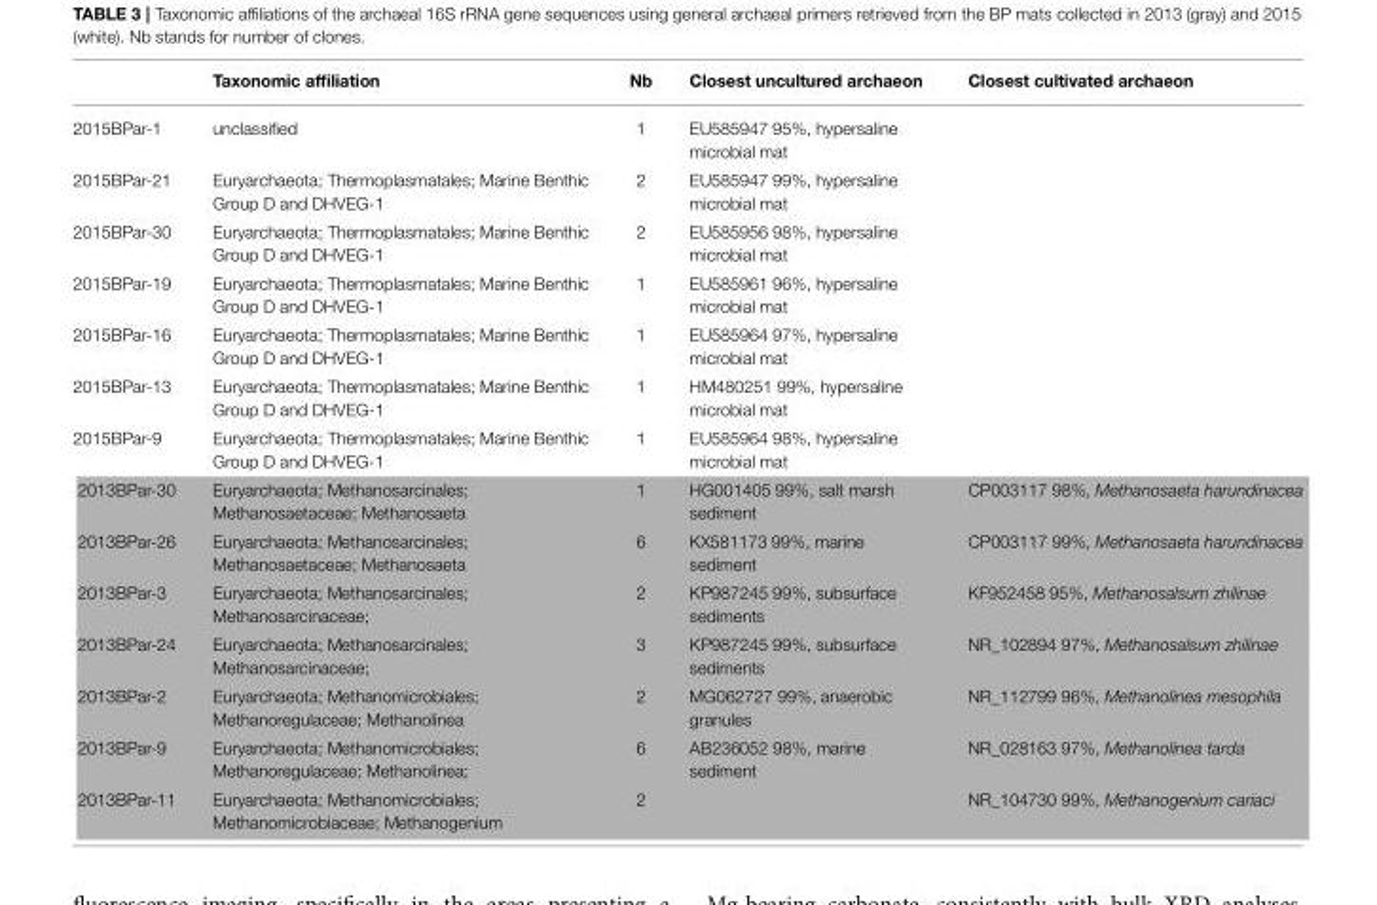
<table><thead><tr><td></td><td>Taxonomic affiliation</td><td>Nb</td><td>Closest uncultured archaeon</td><td>Closest cultivated archaeon</td></tr></thead><tbody><tr><td>2015BPar-1</td><td>unclassified</td><td>1</td><td>EU585947 95%, hypersaline microbial mat</td><td></td></tr><tr><td>2015BPar-21</td><td>Euryarchaeota; Thermoplasmatales; Marine Benthic Group D and DHVEG-1</td><td>2</td><td>EU585947 99%, hypersaline microbial mat</td><td></td></tr><tr><td>2015BPar-30</td><td>Euryarchaeota; Thermoplasmatales; Marine Benthic Group D and DHVEG-1</td><td>2</td><td>EU585956 98%, hypersaline microbial mat</td><td></td></tr><tr><td>2015BPar-19</td><td>Euryarchaeota; Thermoplasmatales; Marine Benthic Group D and DHVEG-1</td><td>1</td><td>EU585961 96%, hypersaline microbial mat</td><td></td></tr><tr><td>2015BPar-16</td><td>Euryarchaeota; Thermoplasmatales; Marine Benthic Group D and DHVEG-1</td><td>1</td><td>EU585964 97%, hypersaline microbial mat</td><td></td></tr><tr><td>2015BPar-13</td><td>Euryarchaeota; Thermoplasmatales; Marine Benthic Group D and DHVEG-1</td><td>1</td><td>HM480251 99%, hypersaline microbial mat</td><td></td></tr><tr><td>2015BPar-9</td><td>Euryarchaeota; Thermoplasmatales; Marine Benthic Group D and DHVEG-1</td><td>1</td><td>EU585964 98%, hypersaline microbial mat</td><td></td></tr><tr><td>2013BPar-30</td><td>Euryarchaeota; Methanosarcinales; Methanosaetaceae; Methanosaeta</td><td>1</td><td>HG001405 99%, salt marsh sediment</td><td>CP003117 98%, Methanosaeta harundinacea</td></tr><tr><td>2013BPar-26</td><td>Euryarchaeota; Methanosarcinales; Methanosaetaceae; Methanosaeta</td><td>6</td><td>KX581173 99%, marine sediment</td><td>CP003117 99%, Methanosaeta harundinacea</td></tr><tr><td>2013BPar-3</td><td>Euryarchaeota; Methanosarcinales; Methanosarcinaceae;</td><td>2</td><td>KP987245 99%, subsurface sediments</td><td>KF952458 95%, Methanosalsum zhilinae</td></tr><tr><td>2013BPar-24</td><td>Euryarchaeota; Methanosarcinales; Methanosarcinaceae;</td><td>3</td><td>KP987245 99%, subsurface sediments</td><td>NR_102894 97%, Methanosalsum zhilinae</td></tr><tr><td>2013BPar-2</td><td>Euryarchaeota; Methanomicrobiales; Methanoregulaceae; Methanolinea</td><td>2</td><td>MG062727 99%, anaerobic granules</td><td>NR_112799 96%, Methanolinea mesophila</td></tr><tr><td>2013BPar-9</td><td>Euryarchaeota; Methanomicrobiales; Methanoregulaceae; Methanolinea;</td><td>6</td><td>AB236052 98%, marine sediment</td><td>NR_028163 97%, Methanolinea tarda</td></tr><tr><td>2013BPar-11</td><td>Euryarchaeota; Methanomicrobiales; Methanomicrobiaceae; Methanogenium</td><td>2</td><td></td><td>NR_104730 99%, Methanogenium cariaci</td></tr></tbody></table>